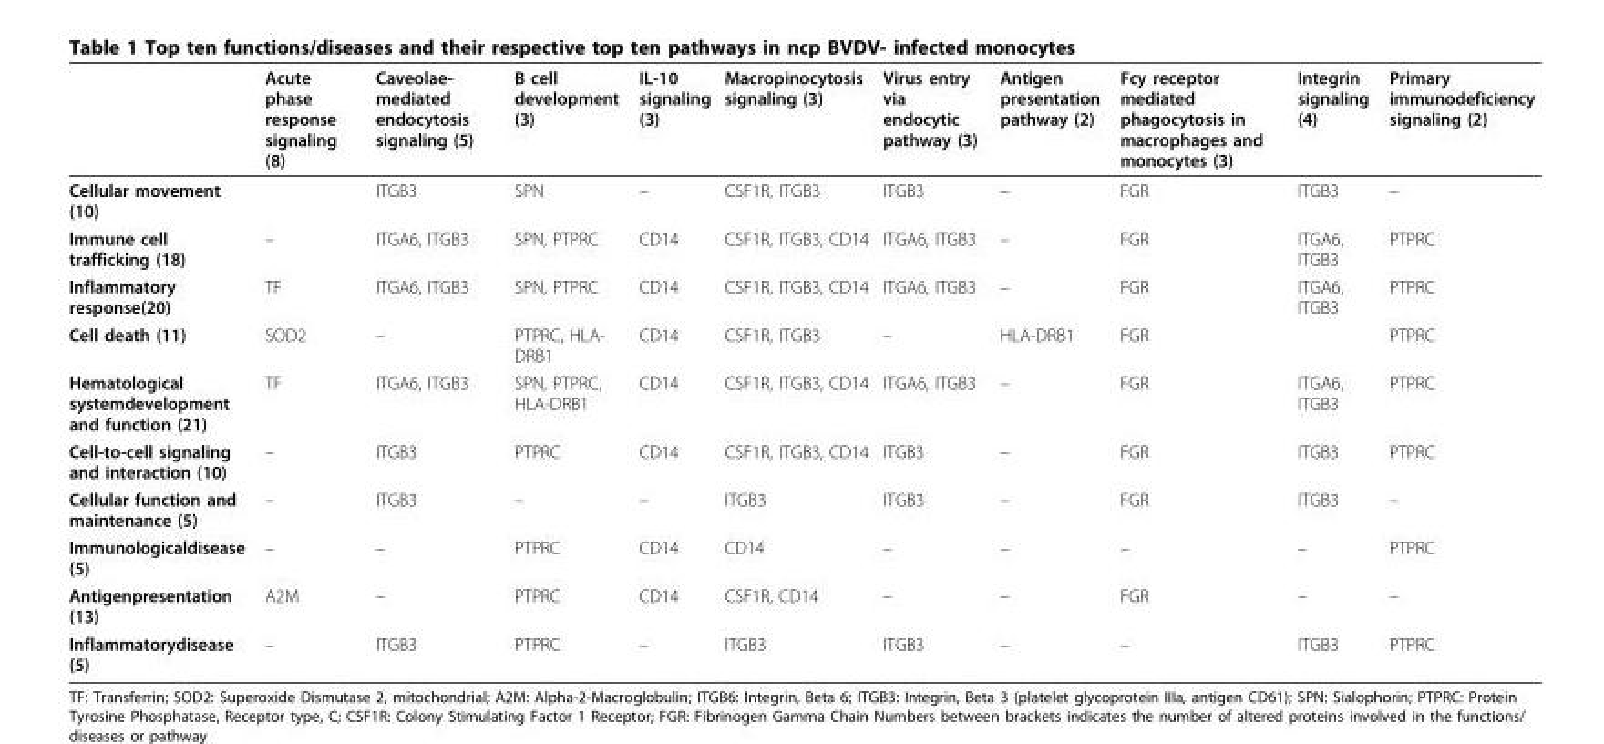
<table><thead><tr><td></td><td>Acute phase response signaling (8)</td><td>Caveolae- mediated endocytosis signaling (5)</td><td>B cell development (3)</td><td>IL-10 signaling (3)</td><td>Macropinocytosis signaling (3)</td><td>Virus entry via endocytic pathway (3)</td><td>Antigen presentation pathway (2)</td><td>Fcy receptor mediated phagocytosis in macrophages and monocytes (3)</td><td>Integrin signaling (4)</td><td>Primary immunodeficiency signaling (2)</td></tr></thead><tbody><tr><td>Cellular movement (10)</td><td></td><td>ITGB3</td><td>SPN</td><td>–</td><td>CSF1R, ITGB3</td><td>ITGB3</td><td>–</td><td>FGR</td><td>ITGB3</td><td>–</td></tr><tr><td>Immune cell trafficking (18)</td><td>–</td><td>ITGA6, ITGB3</td><td>SPN, PTPRC</td><td>CD14</td><td>CSF1R, ITGB3, CD14</td><td>ITGA6, ITGB3</td><td>–</td><td>FGR</td><td>ITGA6, ITGB3</td><td>PTPRC</td></tr><tr><td>Inflammatory response(20)</td><td>TF</td><td>ITGA6, ITGB3</td><td>SPN, PTPRC</td><td>CD14</td><td>CSF1R, ITGB3, CD14</td><td>ITGA6, ITGB3</td><td>–</td><td>FGR</td><td>ITGA6, ITGB3</td><td>PTPRC</td></tr><tr><td>Cell death (11)</td><td>SOD2</td><td>–</td><td>PTPRC, HLA- DRB1</td><td>CD14</td><td>CSF1R, ITGB3</td><td>–</td><td>HLA-DRB1</td><td>FGR</td><td></td><td>PTPRC</td></tr><tr><td>Hematological systemdevelopment and function (21)</td><td>TF</td><td>ITGA6, ITGB3</td><td>SPN, PTPRC, HLA-DRB1</td><td>CD14</td><td>CSF1R, ITGB3, CD14</td><td>ITGA6, ITGB3</td><td>–</td><td>FGR</td><td>ITGA6, ITGB3</td><td>PTPRC</td></tr><tr><td>Cell-to-cell signaling and interaction (10)</td><td>–</td><td>ITGB3</td><td>PTPRC</td><td>CD14</td><td>CSF1R, ITGB3, CD14</td><td>ITGB3</td><td>–</td><td>FGR</td><td>ITGB3</td><td>PTPRC</td></tr><tr><td>Cellular function and maintenance (5)</td><td>–</td><td>ITGB3</td><td>–</td><td>–</td><td>ITGB3</td><td>ITGB3</td><td>–</td><td>FGR</td><td>ITGB3</td><td>–</td></tr><tr><td>Immunologicaldisease (5)</td><td>–</td><td>–</td><td>PTPRC</td><td>CD14</td><td>CD14</td><td>–</td><td>–</td><td>–</td><td>–</td><td>PTPRC</td></tr><tr><td>Antigenpresentation (13)</td><td>A2M</td><td>–</td><td>PTPRC</td><td>CD14</td><td>CSF1R, CD14</td><td>–</td><td>–</td><td>FGR</td><td>–</td><td>–</td></tr><tr><td>Inflammatorydisease (5)</td><td>–</td><td>ITGB3</td><td>PTPRC</td><td>–</td><td>ITGB3</td><td>ITGB3</td><td>–</td><td>–</td><td>ITGB3</td><td>PTPRC</td></tr></tbody></table>